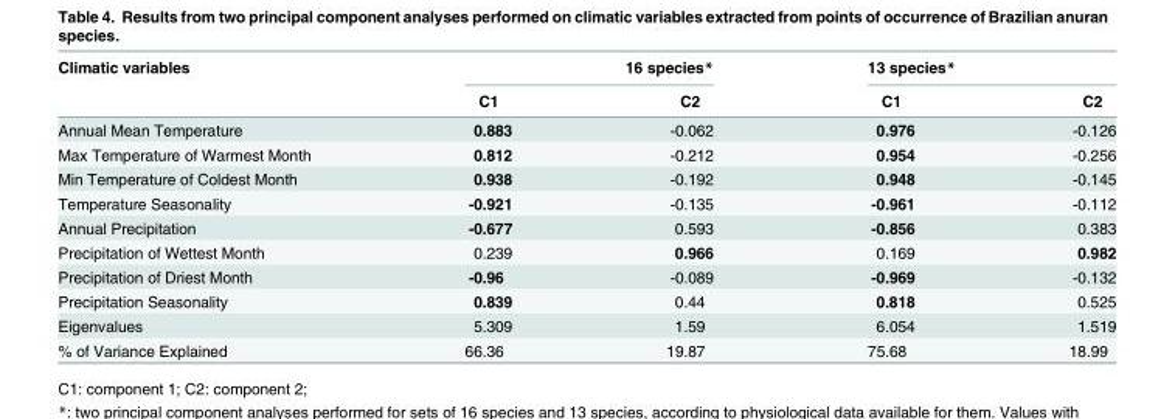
<table><thead><tr><td rowspan="2">Climatic variables</td><td colspan="2">16 species*</td><td colspan="2">13 species*</td></tr><tr><td>C1</td><td>C2</td><td>C1</td><td>C2</td></tr></thead><tbody><tr><td>Annual Mean Temperature</td><td>0.883</td><td>-0.062</td><td>0.976</td><td>-0.126</td></tr><tr><td>Max Temperature of Warmest Month</td><td>0.812</td><td>-0.212</td><td>0.954</td><td>-0.256</td></tr><tr><td>Min Temperature of Coldest Month</td><td>0.938</td><td>-0.192</td><td>0.948</td><td>-0.145</td></tr><tr><td>Temperature Seasonality</td><td>-0.921</td><td>-0.135</td><td>-0.961</td><td>-0.112</td></tr><tr><td>Annual Precipitation</td><td>-0.677</td><td>0.593</td><td>-0.856</td><td>0.383</td></tr><tr><td>Precipitation of Wettest Month</td><td>0.239</td><td>0.966</td><td>0.169</td><td>0.982</td></tr><tr><td>Precipitation of Driest Month</td><td>-0.96</td><td>-0.089</td><td>-0.969</td><td>-0.132</td></tr><tr><td>Precipitation Seasonality</td><td>0.839</td><td>0.44</td><td>0.818</td><td>0.525</td></tr><tr><td>Eigenvalues</td><td>5.309</td><td>1.59</td><td>6.054</td><td>1.519</td></tr><tr><td>% of Variance Explained</td><td>66.36</td><td>19.87</td><td>75.68</td><td>18.99</td></tr></tbody></table>